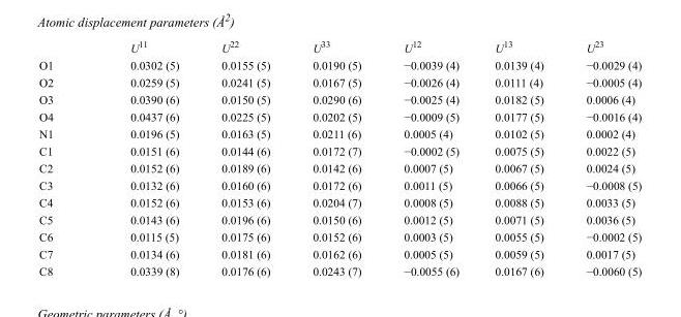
<table><thead><tr><td></td><td>U<sup>11</sup></td><td>U<sup>22</sup></td><td>U<sup>33</sup></td><td>U<sup>12</sup></td><td>U<sup>13</sup></td><td>U<sup>23</sup></td></tr></thead><tbody><tr><td>O1</td><td>0.0302 (5)</td><td>0.0155 (5)</td><td>0.0190 (5)</td><td>−0.0039 (4)</td><td>0.0139 (4)</td><td>−0.0029 (4)</td></tr><tr><td>O2</td><td>0.0259 (5)</td><td>0.0241 (5)</td><td>0.0167 (5)</td><td>−0.0026 (4)</td><td>0.0111 (4)</td><td>−0.0005 (4)</td></tr><tr><td>O3</td><td>0.0390 (6)</td><td>0.0150 (5)</td><td>0.0290 (6)</td><td>−0.0025 (4)</td><td>0.0182 (5)</td><td>0.0006 (4)</td></tr><tr><td>O4</td><td>0.0437 (6)</td><td>0.0225 (5)</td><td>0.0202 (5)</td><td>−0.0009 (5)</td><td>0.0177 (5)</td><td>−0.0016 (4)</td></tr><tr><td>N1</td><td>0.0196 (5)</td><td>0.0163 (5)</td><td>0.0211 (6)</td><td>0.0005 (4)</td><td>0.0102 (5)</td><td>0.0002 (4)</td></tr><tr><td>C1</td><td>0.0151 (6)</td><td>0.0144 (6)</td><td>0.0172 (7)</td><td>−0.0002 (5)</td><td>0.0075 (5)</td><td>0.0022 (5)</td></tr><tr><td>C2</td><td>0.0152 (6)</td><td>0.0189 (6)</td><td>0.0142 (6)</td><td>0.0007 (5)</td><td>0.0067 (5)</td><td>0.0024 (5)</td></tr><tr><td>C3</td><td>0.0132 (6)</td><td>0.0160 (6)</td><td>0.0172 (6)</td><td>0.0011 (5)</td><td>0.0066 (5)</td><td>−0.0008 (5)</td></tr><tr><td>C4</td><td>0.0152 (6)</td><td>0.0153 (6)</td><td>0.0204 (7)</td><td>0.0008 (5)</td><td>0.0088 (5)</td><td>0.0033 (5)</td></tr><tr><td>C5</td><td>0.0143 (6)</td><td>0.0196 (6)</td><td>0.0150 (6)</td><td>0.0012 (5)</td><td>0.0071 (5)</td><td>0.0036 (5)</td></tr><tr><td>C6</td><td>0.0115 (5)</td><td>0.0175 (6)</td><td>0.0152 (6)</td><td>0.0003 (5)</td><td>0.0055 (5)</td><td>−0.0002 (5)</td></tr><tr><td>C7</td><td>0.0134 (6)</td><td>0.0181 (6)</td><td>0.0162 (6)</td><td>0.0005 (5)</td><td>0.0059 (5)</td><td>0.0017 (5)</td></tr><tr><td>C8</td><td>0.0339 (8)</td><td>0.0176 (6)</td><td>0.0243 (7)</td><td>−0.0055 (6)</td><td>0.0167 (6)</td><td>−0.0060 (5)</td></tr></tbody></table>